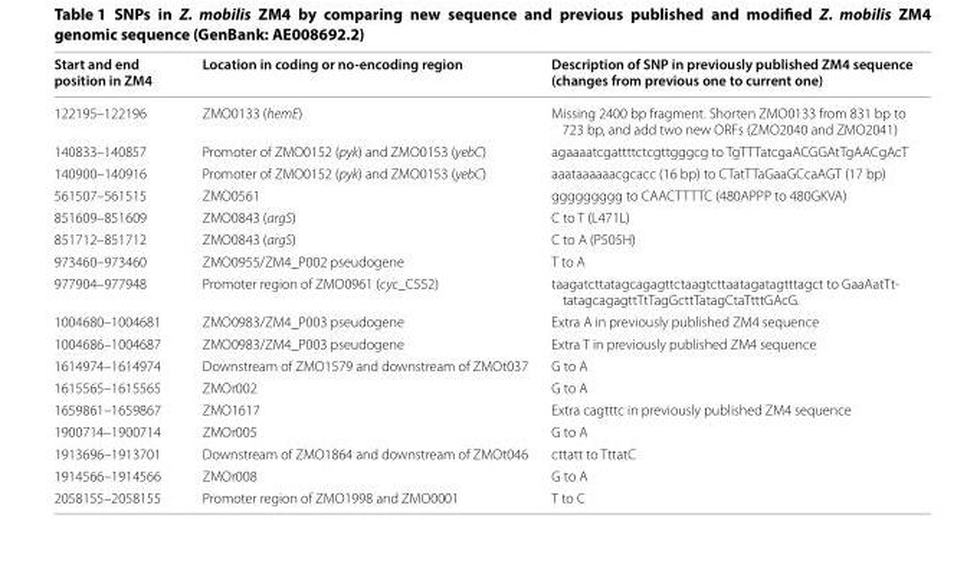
<table><thead><tr><td>Start and end position in ZM4</td><td>Location in coding or no‑encoding region</td><td>Description of SNP in previously published ZM4 sequence (changes from previous one to current one)</td></tr></thead><tbody><tr><td>122195–122196</td><td>ZMO0133 (hemE)</td><td>Missing 2400 bp fragment. Shorten ZMO0133 from 831 bp to 723 bp, and add two new ORFs (ZMO2040 and ZMO2041)</td></tr><tr><td>140833–140857</td><td>Promoter of ZMO0152 (pyk) and ZMO0153 (yebC)</td><td>agaaaatcgattttctcgttgggcg to TgTTTatcgaACGGAtTgAACgAcT</td></tr><tr><td>140900–140916</td><td>Promoter of ZMO0152 (pyk) and ZMO0153 (yebC)</td><td>aaataaaaaacgcacc (16 bp) to CTatTTaGaaGCcaAGT (17 bp)</td></tr><tr><td>561507–561515</td><td>ZMO0561</td><td>ggggggggg to CAA CTT TTC (480APPP to 480GKVA)</td></tr><tr><td>851609–851609</td><td>ZMO0843 (argS)</td><td>C to T (L471L)</td></tr><tr><td>851712–851712</td><td>ZMO0843 (argS)</td><td>C to A (P505H)</td></tr><tr><td>973460–973460</td><td>ZMO0955/ZM4_P002 pseudogene</td><td>T to A</td></tr><tr><td>977904–977948</td><td>Promoter region of ZMO0961 (cyc_C552)</td><td>taagatcttatagcagagttctaagtcttaatagatagtttagct to GaaAatTt- tatagcagagttTtTagGcttTatagCtaTtttGAcG.</td></tr><tr><td>1004680–1004681</td><td>ZMO0983/ZM4_P003 pseudogene</td><td>Extra A in previously published ZM4 sequence</td></tr><tr><td>1004686–1004687</td><td>ZMO0983/ZM4_P003 pseudogene</td><td>Extra T in previously published ZM4 sequence</td></tr><tr><td>1614974–1614974</td><td>Downstream of ZMO1579 and downstream of ZMOt037</td><td>G to A</td></tr><tr><td>1615565–1615565</td><td>ZMOr002</td><td>G to A</td></tr><tr><td>1659861–1659867</td><td>ZMO1617</td><td>Extra cagtttc in previously published ZM4 sequence</td></tr><tr><td>1900714–1900714</td><td>ZMOr005</td><td>G to A</td></tr><tr><td>1913696–1913701</td><td>Downstream of ZMO1864 and downstream of ZMOt046</td><td>cttatt to TttatC</td></tr><tr><td>1914566–1914566</td><td>ZMOr008</td><td>G to A</td></tr><tr><td>2058155–2058155</td><td>Promoter region of ZMO1998 and ZMO0001</td><td>T to C</td></tr></tbody></table>